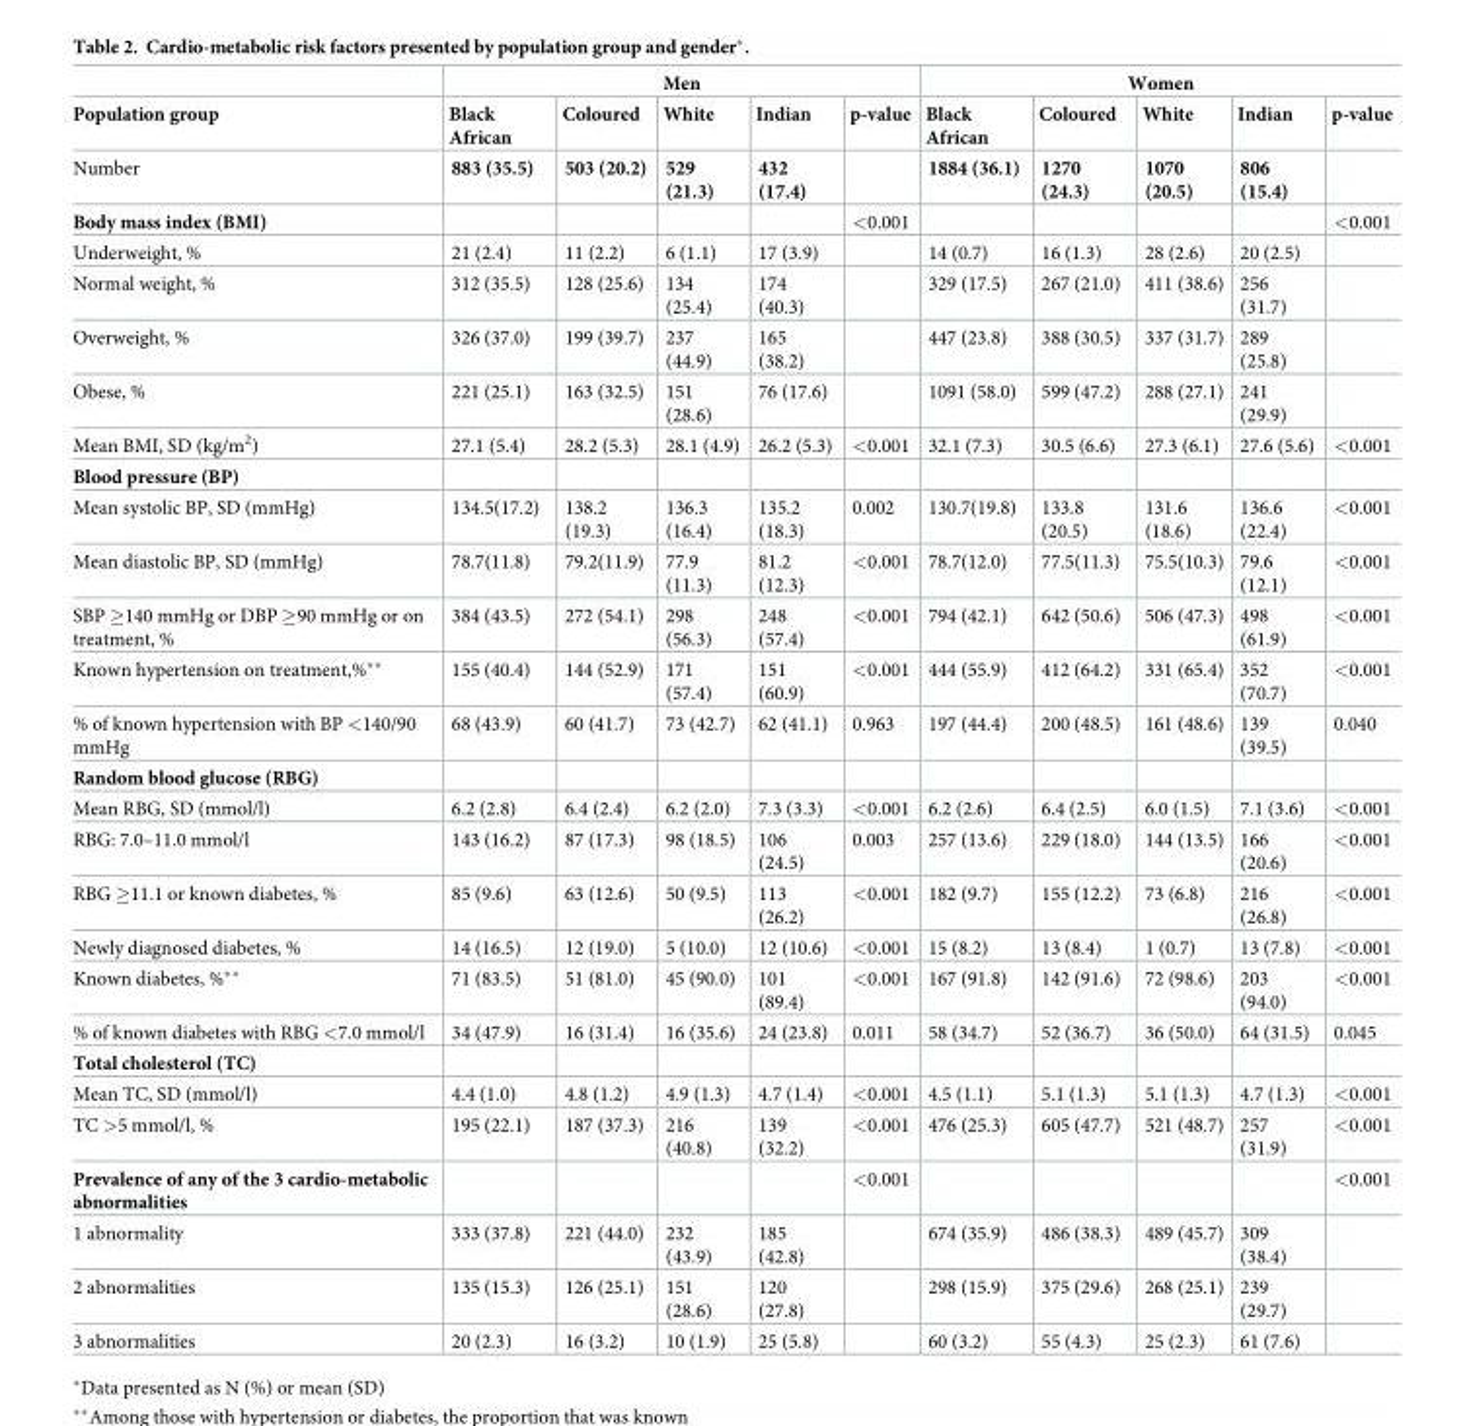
<table><thead><tr><td rowspan="2">Population group</td><td colspan="5">Men</td><td colspan="5">Women</td></tr><tr><td>Black African</td><td>Coloured</td><td>White</td><td>Indian</td><td>p-value</td><td>Black African</td><td>Coloured</td><td>White</td><td>Indian</td><td>p-value</td></tr></thead><tbody><tr><td>Number</td><td>883 (35.5)</td><td>503 (20.2)</td><td>529 (21.3)</td><td>432 (17.4)</td><td></td><td>1884 (36.1)</td><td>1270 (24.3)</td><td>1070 (20.5)</td><td>806 (15.4)</td><td></td></tr><tr><td>Body mass index (BMI)</td><td></td><td></td><td></td><td></td><td>&lt;0.001</td><td></td><td></td><td></td><td></td><td>&lt;0.001</td></tr><tr><td>Underweight, %</td><td>21 (2.4)</td><td>11 (2.2)</td><td>6 (1.1)</td><td>17 (3.9)</td><td></td><td>14 (0.7)</td><td>16 (1.3)</td><td>28 (2.6)</td><td>20 (2.5)</td><td></td></tr><tr><td>Normal weight, %</td><td>312 (35.5)</td><td>128 (25.6)</td><td>134 (25.4)</td><td>174 (40.3)</td><td></td><td>329 (17.5)</td><td>267 (21.0)</td><td>411 (38.6)</td><td>256 (31.7)</td><td></td></tr><tr><td>Overweight, %</td><td>326 (37.0)</td><td>199 (39.7)</td><td>237 (44.9)</td><td>165 (38.2)</td><td></td><td>447 (23.8)</td><td>388 (30.5)</td><td>337 (31.7)</td><td>289 (25.8)</td><td></td></tr><tr><td>Obese, %</td><td>221 (25.1)</td><td>163 (32.5)</td><td>151 (28.6)</td><td>76 (17.6)</td><td></td><td>1091 (58.0)</td><td>599 (47.2)</td><td>288 (27.1)</td><td>241 (29.9)</td><td></td></tr><tr><td>Mean BMI, SD (kg/m<sup>2</sup>)</td><td>27.1 (5.4)</td><td>28.2 (5.3)</td><td>28.1 (4.9)</td><td>26.2 (5.3)</td><td>&lt;0.001</td><td>32.1 (7.3)</td><td>30.5 (6.6)</td><td>27.3 (6.1)</td><td>27.6 (5.6)</td><td>&lt;0.001</td></tr><tr><td colspan="11">Blood pressure (BP)</td></tr><tr><td>Mean systolic BP, SD (mmHg)</td><td>134.5(17.2)</td><td>138.2 (19.3)</td><td>136.3 (16.4)</td><td>135.2 (18.3)</td><td>0.002</td><td>130.7(19.8)</td><td>133.8 (20.5)</td><td>131.6 (18.6)</td><td>136.6 (22.4)</td><td>&lt;0.001</td></tr><tr><td>Mean diastolic BP, SD (mmHg)</td><td>78.7(11.8)</td><td>79.2(11.9)</td><td>77.9 (11.3)</td><td>81.2 (12.3)</td><td>&lt;0.001</td><td>78.7(12.0)</td><td>77.5(11.3)</td><td>75.5(10.3)</td><td>79.6 (12.1)</td><td>&lt;0.001</td></tr><tr><td>SBP ≥140 mmHg or DBP ≥90 mmHg or on treatment, %</td><td>384 (43.5)</td><td>272 (54.1)</td><td>298 (56.3)</td><td>248 (57.4)</td><td>&lt;0.001</td><td>794 (42.1)</td><td>642 (50.6)</td><td>506 (47.3)</td><td>498 (61.9)</td><td>&lt;0.001</td></tr><tr><td>Known hypertension on treatment,%**</td><td>155 (40.4)</td><td>144 (52.9)</td><td>171 (57.4)</td><td>151 (60.9)</td><td>&lt;0.001</td><td>444 (55.9)</td><td>412 (64.2)</td><td>331 (65.4)</td><td>352 (70.7)</td><td>&lt;0.001</td></tr><tr><td>% of known hypertension with BP &lt;140/90 mmHg</td><td>68 (43.9)</td><td>60 (41.7)</td><td>73 (42.7)</td><td>62 (41.1)</td><td>0.963</td><td>197 (44.4)</td><td>200 (48.5)</td><td>161 (48.6)</td><td>139 (39.5)</td><td>0.040</td></tr><tr><td colspan="11">Random blood glucose (RBG)</td></tr><tr><td>Mean RBG, SD (mmol/l)</td><td>6.2 (2.8)</td><td>6.4 (2.4)</td><td>6.2 (2.0)</td><td>7.3 (3.3)</td><td>&lt;0.001</td><td>6.2 (2.6)</td><td>6.4 (2.5)</td><td>6.0 (1.5)</td><td>7.1 (3.6)</td><td>&lt;0.001</td></tr><tr><td>RBG: 7.0–11.0 mmol/l</td><td>143 (16.2)</td><td>87 (17.3)</td><td>98 (18.5)</td><td>106 (24.5)</td><td>0.003</td><td>257 (13.6)</td><td>229 (18.0)</td><td>144 (13.5)</td><td>166 (20.6)</td><td>&lt;0.001</td></tr><tr><td>RBG ≥11.1 or known diabetes, %</td><td>85 (9.6)</td><td>63 (12.6)</td><td>50 (9.5)</td><td>113 (26.2)</td><td>&lt;0.001</td><td>182 (9.7)</td><td>155 (12.2)</td><td>73 (6.8)</td><td>216 (26.8)</td><td>&lt;0.001</td></tr><tr><td>Newly diagnosed diabetes, %</td><td>14 (16.5)</td><td>12 (19.0)</td><td>5 (10.0)</td><td>12 (10.6)</td><td>&lt;0.001</td><td>15 (8.2)</td><td>13 (8.4)</td><td>1 (0.7)</td><td>13 (7.8)</td><td>&lt;0.001</td></tr><tr><td>Known diabetes, %**</td><td>71 (83.5)</td><td>51 (81.0)</td><td>45 (90.0)</td><td>101 (89.4)</td><td>&lt;0.001</td><td>167 (91.8)</td><td>142 (91.6)</td><td>72 (98.6)</td><td>203 (94.0)</td><td>&lt;0.001</td></tr><tr><td>% of known diabetes with RBG &lt;7.0 mmol/l</td><td>34 (47.9)</td><td>16 (31.4)</td><td>16 (35.6)</td><td>24 (23.8)</td><td>0.011</td><td>58 (34.7)</td><td>52 (36.7)</td><td>36 (50.0)</td><td>64 (31.5)</td><td>0.045</td></tr><tr><td colspan="11">Total cholesterol (TC)</td></tr><tr><td>Mean TC, SD (mmol/l)</td><td>4.4 (1.0)</td><td>4.8 (1.2)</td><td>4.9 (1.3)</td><td>4.7 (1.4)</td><td>&lt;0.001</td><td>4.5 (1.1)</td><td>5.1 (1.3)</td><td>5.1 (1.3)</td><td>4.7 (1.3)</td><td>&lt;0.001</td></tr><tr><td>TC &gt;5 mmol/l, %</td><td>195 (22.1)</td><td>187 (37.3)</td><td>216 (40.8)</td><td>139 (32.2)</td><td>&lt;0.001</td><td>476 (25.3)</td><td>605 (47.7)</td><td>521 (48.7)</td><td>257 (31.9)</td><td>&lt;0.001</td></tr><tr><td>Prevalence of any of the 3 cardio-metabolic abnormalities</td><td></td><td></td><td></td><td></td><td>&lt;0.001</td><td></td><td></td><td></td><td></td><td>&lt;0.001</td></tr><tr><td>1 abnormality</td><td>333 (37.8)</td><td>221 (44.0)</td><td>232 (43.9)</td><td>185 (42.8)</td><td></td><td>674 (35.9)</td><td>486 (38.3)</td><td>489 (45.7)</td><td>309 (38.4)</td><td></td></tr><tr><td>2 abnormalities</td><td>135 (15.3)</td><td>126 (25.1)</td><td>151 (28.6)</td><td>120 (27.8)</td><td></td><td>298 (15.9)</td><td>375 (29.6)</td><td>268 (25.1)</td><td>239 (29.7)</td><td></td></tr><tr><td>3 abnormalities</td><td>20 (2.3)</td><td>16 (3.2)</td><td>10 (1.9)</td><td>25 (5.8)</td><td></td><td>60 (3.2)</td><td>55 (4.3)</td><td>25 (2.3)</td><td>61 (7.6)</td><td></td></tr></tbody></table>